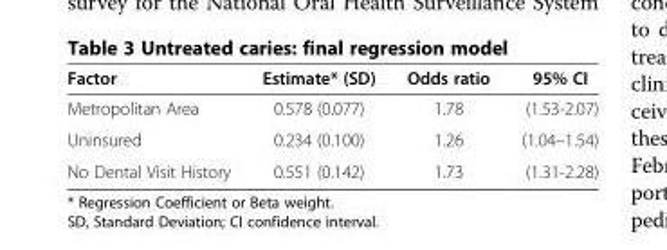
<table><thead><tr><td>Factor</td><td>Estimate* (SD)</td><td>Odds ratio</td><td>95% CI</td></tr></thead><tbody><tr><td>Metropolitan Area</td><td>0.578 (0.077)</td><td>1.78</td><td>(1.53-2.07)</td></tr><tr><td>Uninsured</td><td>0.234 (0.100)</td><td>1.26</td><td>(1.04–1.54)</td></tr><tr><td>No Dental Visit History</td><td>0.551 (0.142)</td><td>1.73</td><td>(1.31-2.28)</td></tr></tbody></table>